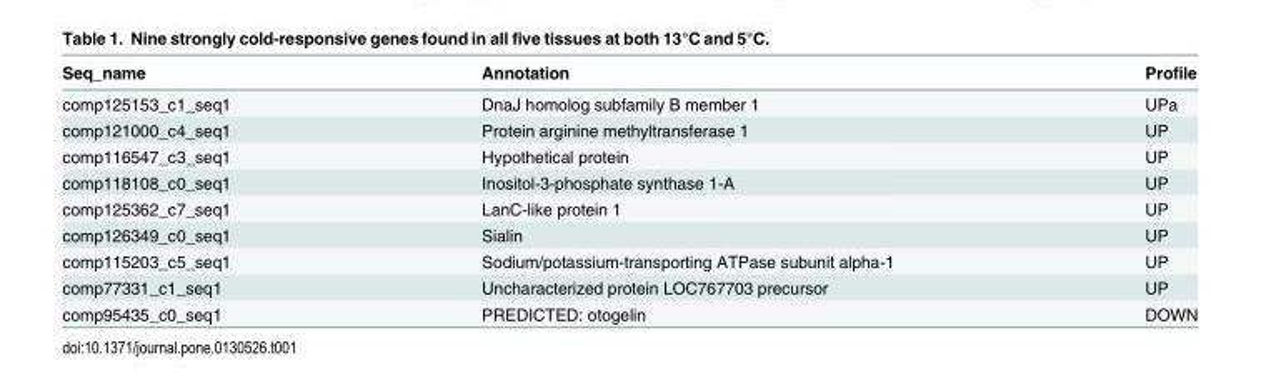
<table><thead><tr><td>Seq_name</td><td>Annotation</td><td>Profile</td></tr></thead><tbody><tr><td>comp125153_c1_seq1</td><td>DnaJ homolog subfamily B member 1</td><td>UPa</td></tr><tr><td>comp121000_c4_seq1</td><td>Protein arginine methyltransferase 1</td><td>UP</td></tr><tr><td>comp116547_c3_seq1</td><td>Hypothetical protein</td><td>UP</td></tr><tr><td>comp118108_c0_seq1</td><td>Inositol-3-phosphate synthase 1-A</td><td>UP</td></tr><tr><td>comp125362_c7_seq1</td><td>LanC-like protein 1</td><td>UP</td></tr><tr><td>comp126349_c0_seq1</td><td>Sialin</td><td>UP</td></tr><tr><td>comp115203_c5_seq1</td><td>Sodium/potassium-transporting ATPase subunit alpha-1</td><td>UP</td></tr><tr><td>comp77331_c1_seq1</td><td>Uncharacterized protein LOC767703 precursor</td><td>UP</td></tr><tr><td>comp95435_c0_seq1</td><td>PREDICTED: otogelin</td><td>DOWN</td></tr></tbody></table>